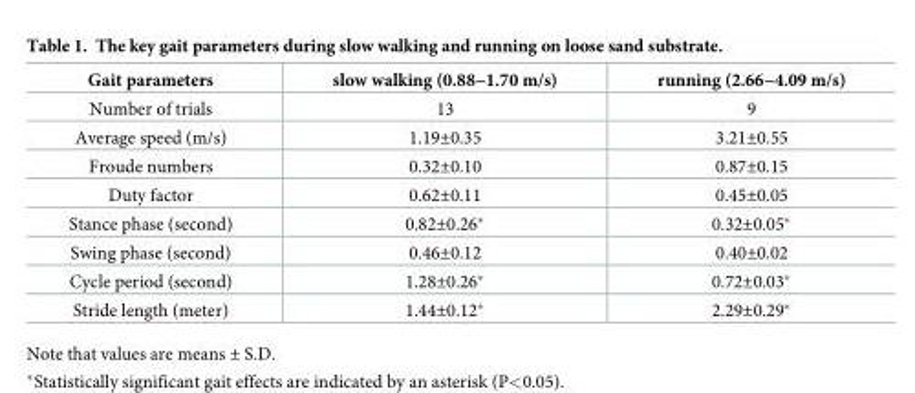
<table><thead><tr><td>Gait parameters</td><td>slow walking (0.88−1.70 m/s)</td><td>running (2.66−4.09 m/s)</td></tr></thead><tbody><tr><td>Number of trials</td><td>13</td><td>9</td></tr><tr><td>Average speed (m/s)</td><td>1.19±0.35</td><td>3.21±0.55</td></tr><tr><td>Froude numbers</td><td>0.32±0.10</td><td>0.87±0.15</td></tr><tr><td>Duty factor</td><td>0.62±0.11</td><td>0.45±0.05</td></tr><tr><td>Stance phase (second)</td><td>0.82±0.26*</td><td>0.32±0.05*</td></tr><tr><td>Swing phase (second)</td><td>0.46±0.12</td><td>0.40±0.02</td></tr><tr><td>Cycle period (second)</td><td>1.28±0.26*</td><td>0.72±0.03*</td></tr><tr><td>Stride length (meter)</td><td>1.44±0.12*</td><td>2.29±0.29*</td></tr></tbody></table>